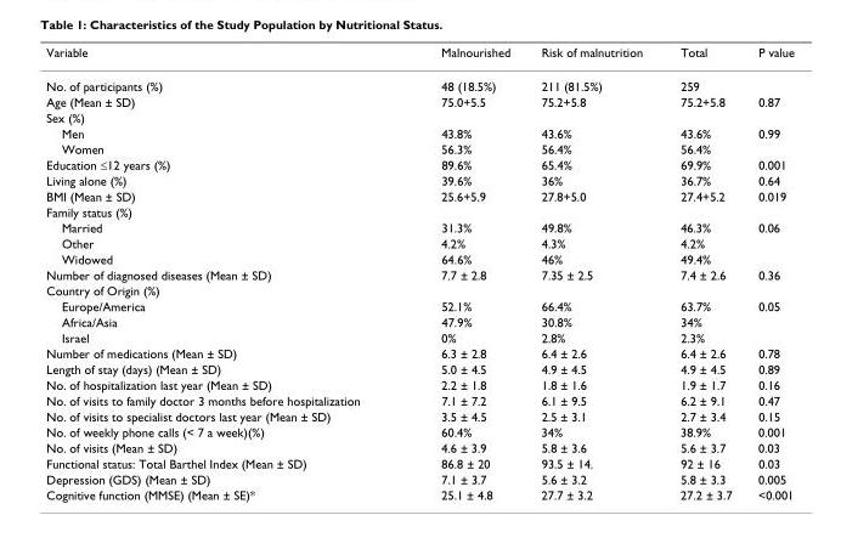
<table><thead><tr><td>Variable</td><td>Malnourished</td><td>Risk of malnutrition</td><td>Total</td><td>P value</td></tr></thead><tbody><tr><td>No. of participants (%)</td><td>48 (18.5%)</td><td>211 (81.5%)</td><td>259</td><td></td></tr><tr><td>Age (Mean ± SD)</td><td>75.0+5.5</td><td>75.2+5.8</td><td>75.2+5.8</td><td>0.87</td></tr><tr><td colspan="5">Sex (%)</td></tr><tr><td>Men</td><td>43.8%</td><td>43.6%</td><td>43.6%</td><td>0.99</td></tr><tr><td>Women</td><td>56.3%</td><td>56.4%</td><td>56.4%</td><td></td></tr><tr><td>Education ≤12 years (%)</td><td>89.6%</td><td>65.4%</td><td>69.9%</td><td>0.001</td></tr><tr><td>Living alone (%)</td><td>39.6%</td><td>36%</td><td>36.7%</td><td>0.64</td></tr><tr><td>BMI (Mean ± SD)</td><td>25.6+5.9</td><td>27.8+5.0</td><td>27.4+5.2</td><td>0.019</td></tr><tr><td colspan="5">Family status (%)</td></tr><tr><td>Married</td><td>31.3%</td><td>49.8%</td><td>46.3%</td><td>0.06</td></tr><tr><td>Other</td><td>4.2%</td><td>4.3%</td><td>4.2%</td><td></td></tr><tr><td>Widowed</td><td>64.6%</td><td>46%</td><td>49.4%</td><td></td></tr><tr><td>Number of diagnosed diseases (Mean ± SD)</td><td>7.7 ± 2.8</td><td>7.35 ± 2.5</td><td>7.4 ± 2.6</td><td>0.36</td></tr><tr><td colspan="5">Country of Origin (%)</td></tr><tr><td>Europe/America</td><td>52.1%</td><td>66.4%</td><td>63.7%</td><td>0.05</td></tr><tr><td>Africa/Asia</td><td>47.9%</td><td>30.8%</td><td>34%</td><td></td></tr><tr><td>Israel</td><td>0%</td><td>2.8%</td><td>2.3%</td><td></td></tr><tr><td>Number of medications (Mean ± SD)</td><td>6.3 ± 2.8</td><td>6.4 ± 2.6</td><td>6.4 ± 2.6</td><td>0.78</td></tr><tr><td>Length of stay (days) (Mean ± SD)</td><td>5.0 ± 4.5</td><td>4.9 ± 4.5</td><td>4.9 ± 4.5</td><td>0.89</td></tr><tr><td>No. of hospitalization last year (Mean ± SD)</td><td>2.2 ± 1.8</td><td>1.8 ± 1.6</td><td>1.9 ± 1.7</td><td>0.16</td></tr><tr><td>No. of visits to family doctor 3 months before hospitalization</td><td>7.1 ± 7.2</td><td>6.1 ± 9.5</td><td>6.2 ± 9.1</td><td>0.47</td></tr><tr><td>No. of visits to specialist doctors last year (Mean ± SD)</td><td>3.5 ± 4.5</td><td>2.5 ± 3.1</td><td>2.7 ± 3.4</td><td>0.15</td></tr><tr><td>No. of weekly phone calls (&lt; 7 a week)(%)</td><td>60.4%</td><td>34%</td><td>38.9%</td><td>0.001</td></tr><tr><td>No. of visits (Mean ± SD)</td><td>4.6 ± 3.9</td><td>5.8 ± 3.6</td><td>5.6 ± 3.7</td><td>0.03</td></tr><tr><td>Functional status: Total Barthel Index (Mean ± SD)</td><td>86.8 ± 20</td><td>93.5 ± 14.</td><td>92 ± 16</td><td>0.03</td></tr><tr><td>Depression (GDS) (Mean ± SD)</td><td>7.1 ± 3.7</td><td>5.6 ± 3.2</td><td>5.8 ± 3.3</td><td>0.005</td></tr><tr><td>Cognitive function (MMSE) (Mean ± SE)*</td><td>25.1 ± 4.8</td><td>27.7 ± 3.2</td><td>27.2 ± 3.7</td><td>&lt;0.001</td></tr></tbody></table>